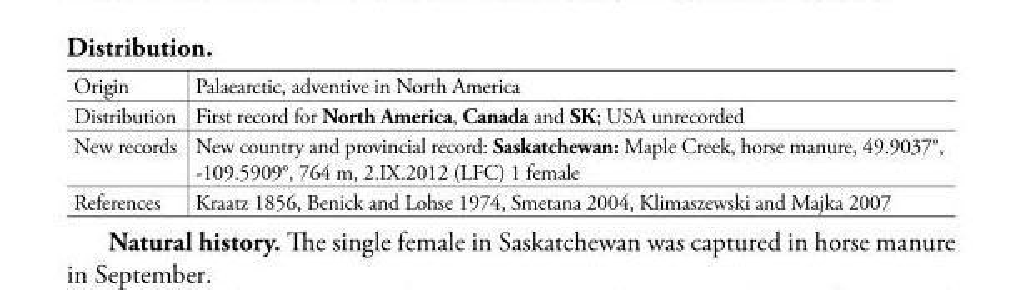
<table><tbody><tr><td>Origin</td><td>Palaearctic, adventive in North America</td></tr><tr><td>Distribution</td><td>First record for North America, Canada and SK; USA unrecorded</td></tr><tr><td>New records</td><td>New country and provincial record: Saskatchewan: Maple Creek, horse manure, 49.9037°, -109.5909°, 764 m, 2.IX.2012 (LFC) 1 female</td></tr><tr><td>References</td><td>Kraatz 1856, Benick and Lohse 1974, Smetana 2004, Klimaszewski and Majka 2007</td></tr></tbody></table>